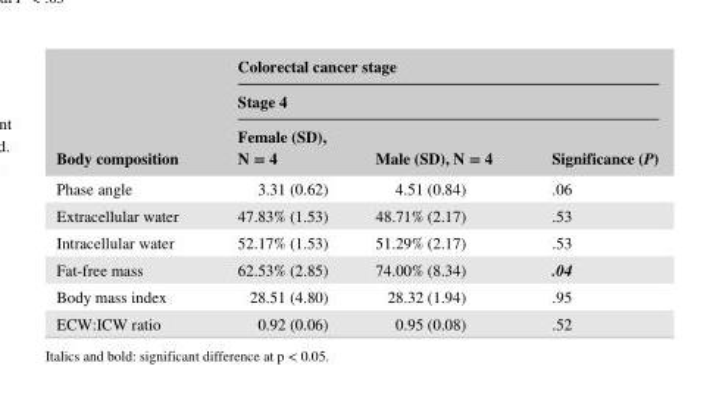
<table><thead><tr><td rowspan="3">Body composition</td><td rowspan="2" colspan="3">Colorectal cancer stage Stage 4</td></tr><tr></tr><tr><td>Female (SD), N = 4</td><td>Male (SD), N = 4</td><td>Significance (P)</td></tr></thead><tbody><tr><td>Phase angle</td><td>3.31 (0.62)</td><td>4.51 (0.84)</td><td>.06</td></tr><tr><td>Extracellular water</td><td>47.83% (1.53)</td><td>48.71% (2.17)</td><td>.53</td></tr><tr><td>Intracellular water</td><td>52.17% (1.53)</td><td>51.29% (2.17)</td><td>.53</td></tr><tr><td>Fat- free mass</td><td>62.53% (2.85)</td><td>74.00% (8.34)</td><td>.04</td></tr><tr><td>Body mass index</td><td>28.51 (4.80)</td><td>28.32 (1.94)</td><td>.95</td></tr><tr><td>ECW:ICW ratio</td><td>0.92 (0.06)</td><td>0.95 (0.08)</td><td>.52</td></tr></tbody></table>